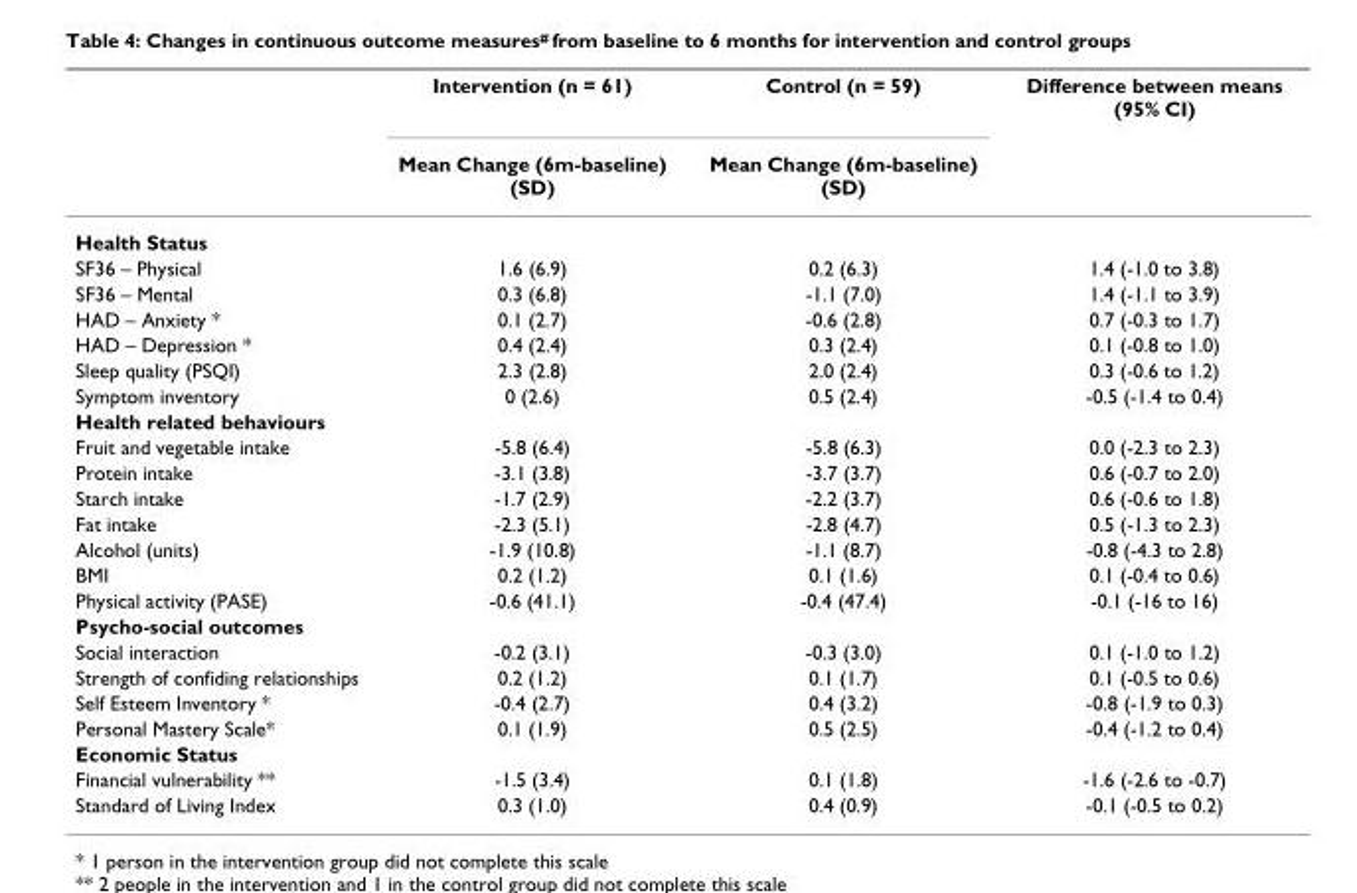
<table><thead><tr><td rowspan="2"></td><td rowspan="2">Intervention (n = 61) Mean Change (6m-baseline) (SD)</td><td rowspan="2">Control (n = 59) Mean Change (6m-baseline) (SD)</td><td rowspan="2">Difference between means (95% CI)</td></tr><tr></tr></thead><tbody><tr><td colspan="4">Health Status</td></tr><tr><td>SF36 – Physical</td><td>1.6 (6.9)</td><td>0.2 (6.3)</td><td>1.4 (-1.0 to 3.8)</td></tr><tr><td>SF36 – Mental</td><td>0.3 (6.8)</td><td>-1.1 (7.0)</td><td>1.4 (-1.1 to 3.9)</td></tr><tr><td>HAD – Anxiety *</td><td>0.1 (2.7)</td><td>-0.6 (2.8)</td><td>0.7 (-0.3 to 1.7)</td></tr><tr><td>HAD – Depression *</td><td>0.4 (2.4)</td><td>0.3 (2.4)</td><td>0.1 (-0.8 to 1.0)</td></tr><tr><td>Sleep quality (PSQI)</td><td>2.3 (2.8)</td><td>2.0 (2.4)</td><td>0.3 (-0.6 to 1.2)</td></tr><tr><td>Symptom inventory</td><td>0 (2.6)</td><td>0.5 (2.4)</td><td>-0.5 (-1.4 to 0.4)</td></tr><tr><td colspan="4">Health related behaviours</td></tr><tr><td>Fruit and vegetable intake</td><td>-5.8 (6.4)</td><td>-5.8 (6.3)</td><td>0.0 (-2.3 to 2.3)</td></tr><tr><td>Protein intake</td><td>-3.1 (3.8)</td><td>-3.7 (3.7)</td><td>0.6 (-0.7 to 2.0)</td></tr><tr><td>Starch intake</td><td>-1.7 (2.9)</td><td>-2.2 (3.7)</td><td>0.6 (-0.6 to 1.8)</td></tr><tr><td>Fat intake</td><td>-2.3 (5.1)</td><td>-2.8 (4.7)</td><td>0.5 (-1.3 to 2.3)</td></tr><tr><td>Alcohol (units)</td><td>-1.9 (10.8)</td><td>-1.1 (8.7)</td><td>-0.8 (-4.3 to 2.8)</td></tr><tr><td>BMI</td><td>0.2 (1.2)</td><td>0.1 (1.6)</td><td>0.1 (-0.4 to 0.6)</td></tr><tr><td>Physical activity (PASE)</td><td>-0.6 (41.1)</td><td>-0.4 (47.4)</td><td>-0.1 (-16 to 16)</td></tr><tr><td colspan="4">Psycho-social outcomes</td></tr><tr><td>Social interaction</td><td>-0.2 (3.1)</td><td>-0.3 (3.0)</td><td>0.1 (-1.0 to 1.2)</td></tr><tr><td>Strength of confiding relationships</td><td>0.2 (1.2)</td><td>0.1 (1.7)</td><td>0.1 (-0.5 to 0.6)</td></tr><tr><td>Self Esteem Inventory *</td><td>-0.4 (2.7)</td><td>0.4 (3.2)</td><td>-0.8 (-1.9 to 0.3)</td></tr><tr><td>Personal Mastery Scale*</td><td>0.1 (1.9)</td><td>0.5 (2.5)</td><td>-0.4 (-1.2 to 0.4)</td></tr><tr><td colspan="4">Economic Status</td></tr><tr><td>Financial vulnerability **</td><td>-1.5 (3.4)</td><td>0.1 (1.8)</td><td>-1.6 (-2.6 to -0.7)</td></tr><tr><td>Standard of Living Index</td><td>0.3 (1.0)</td><td>0.4 (0.9)</td><td>-0.1 (-0.5 to 0.2)</td></tr></tbody></table>